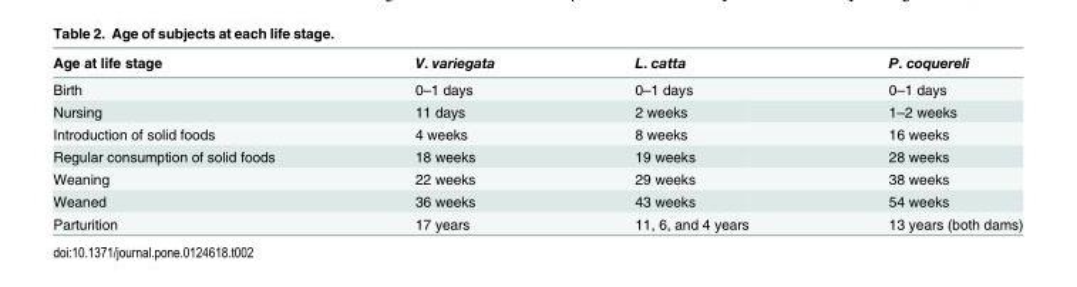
<table><thead><tr><td>Age at life stage</td><td>V. variegata</td><td>L. catta</td><td>P. coquereli</td></tr></thead><tbody><tr><td>Birth</td><td>0–1 days</td><td>0–1 days</td><td>0–1 days</td></tr><tr><td>Nursing</td><td>11 days</td><td>2 weeks</td><td>1–2 weeks</td></tr><tr><td>Introduction of solid foods</td><td>4 weeks</td><td>8 weeks</td><td>16 weeks</td></tr><tr><td>Regular consumption of solid foods</td><td>18 weeks</td><td>19 weeks</td><td>28 weeks</td></tr><tr><td>Weaning</td><td>22 weeks</td><td>29 weeks</td><td>38 weeks</td></tr><tr><td>Weaned</td><td>36 weeks</td><td>43 weeks</td><td>54 weeks</td></tr><tr><td>Parturition</td><td>17 years</td><td>11, 6, and 4 years</td><td>13 years (both dams)</td></tr></tbody></table>